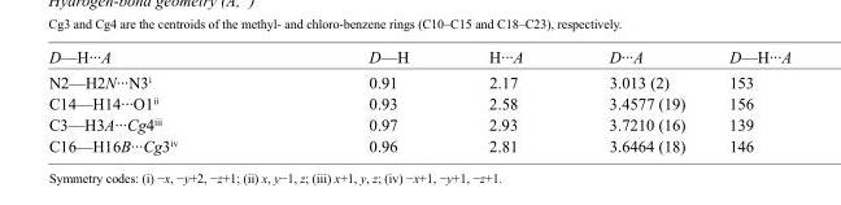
<table><tbody><tr><td>D—H···A</td><td>D—H</td><td>H···A</td><td>D···A</td><td>D—H···A</td></tr><tr><td>N2—H2N···N3<sup>i</sup></td><td>0.91</td><td>2.17</td><td>3.013 (2)</td><td>153</td></tr><tr><td>C14—H14···O1<sup>ii</sup></td><td>0.93</td><td>2.58</td><td>3.4577 (19)</td><td>156</td></tr><tr><td>C3—H3A···Cg4<sup>iii</sup></td><td>0.97</td><td>2.93</td><td>3.7210 (16)</td><td>139</td></tr><tr><td>C16—H16B···Cg3<sup>iv</sup></td><td>0.96</td><td>2.81</td><td>3.6464 (18)</td><td>146</td></tr></tbody></table>